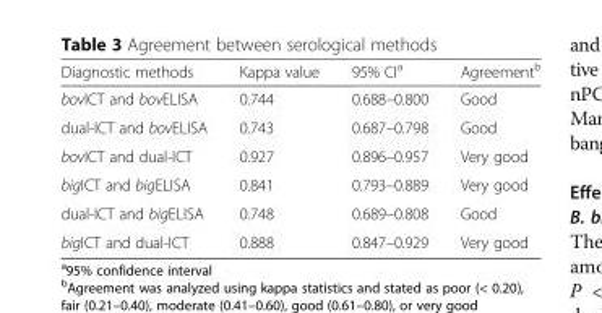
<table><thead><tr><td>Diagnostic methods</td><td>Kappa value</td><td>95% CI<sup>a</sup></td><td>Agreement<sup>b</sup></td></tr></thead><tbody><tr><td>bovICT and bovELISA</td><td>0.744</td><td>0.688–0.800</td><td>Good</td></tr><tr><td>dual-ICT and bovELISA</td><td>0.743</td><td>0.687–0.798</td><td>Good</td></tr><tr><td>bovICT and dual-ICT</td><td>0.927</td><td>0.896–0.957</td><td>Very good</td></tr><tr><td>bigICT and bigELISA</td><td>0.841</td><td>0.793–0.889</td><td>Very good</td></tr><tr><td>dual-ICT and bigELISA</td><td>0.748</td><td>0.689–0.808</td><td>Good</td></tr><tr><td>bigICT and dual-ICT</td><td>0.888</td><td>0.847–0.929</td><td>Very good</td></tr></tbody></table>